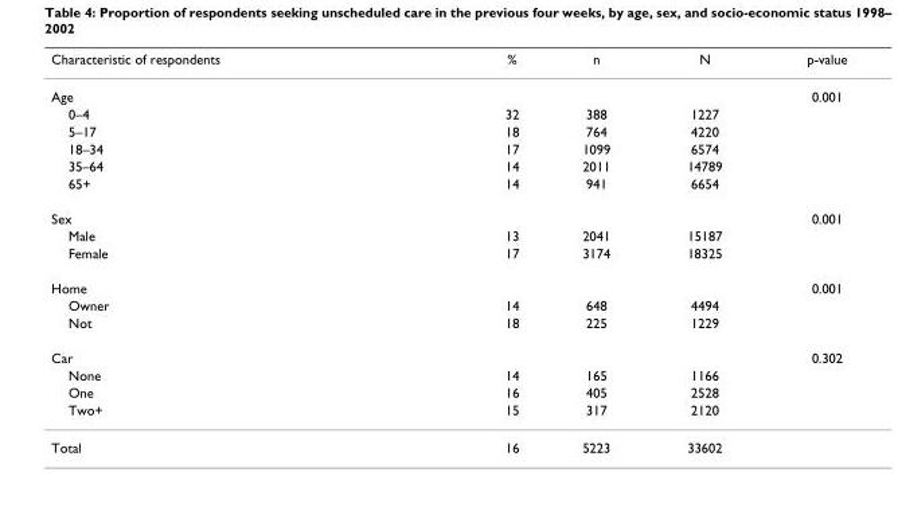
<table><thead><tr><td>Characteristic of respondents</td><td>%</td><td>n</td><td>N</td><td>p-value</td></tr></thead><tbody><tr><td>Age</td><td></td><td></td><td></td><td>0.001</td></tr><tr><td>0–4</td><td>32</td><td>388</td><td>1227</td><td></td></tr><tr><td>5–17</td><td>18</td><td>764</td><td>4220</td><td></td></tr><tr><td>18–34</td><td>17</td><td>1099</td><td>6574</td><td></td></tr><tr><td>35–64</td><td>14</td><td>2011</td><td>14789</td><td></td></tr><tr><td>65+</td><td>14</td><td>941</td><td>6654</td><td></td></tr><tr><td>Sex</td><td></td><td></td><td></td><td>0.001</td></tr><tr><td>Male</td><td>13</td><td>2041</td><td>15187</td><td></td></tr><tr><td>Female</td><td>17</td><td>3174</td><td>18325</td><td></td></tr><tr><td>Home</td><td></td><td></td><td></td><td>0.001</td></tr><tr><td>Owner</td><td>14</td><td>648</td><td>4494</td><td></td></tr><tr><td>Not</td><td>18</td><td>225</td><td>1229</td><td></td></tr><tr><td>Car</td><td></td><td></td><td></td><td>0.302</td></tr><tr><td>None</td><td>14</td><td>165</td><td>1166</td><td></td></tr><tr><td>One</td><td>16</td><td>405</td><td>2528</td><td></td></tr><tr><td>Two+</td><td>15</td><td>317</td><td>2120</td><td></td></tr><tr><td>Total</td><td>16</td><td>5223</td><td>33602</td><td></td></tr></tbody></table>